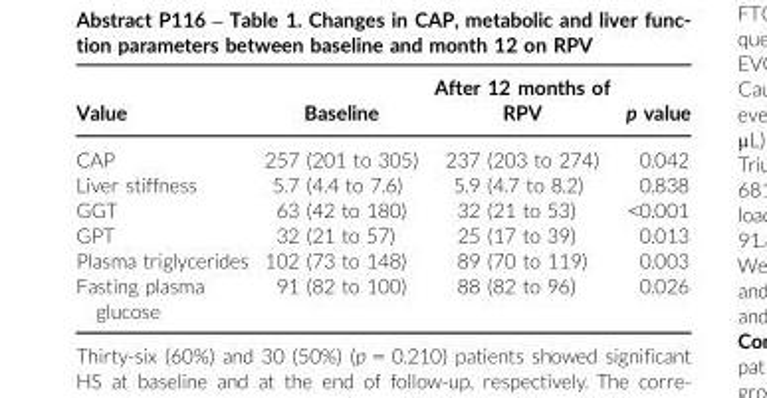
<table><thead><tr><td>Value</td><td>Baseline</td><td>After 12 months of RPV</td><td>p value</td></tr></thead><tbody><tr><td>CAP</td><td>257 (201 to 305)</td><td>237 (203 to 274)</td><td>0.042</td></tr><tr><td>Liver stiffness</td><td>5.7 (4.4 to 7.6)</td><td>5.9 (4.7 to 8.2)</td><td>0.838</td></tr><tr><td>GGT</td><td>63 (42 to 180)</td><td>32 (21 to 53)</td><td>&lt;0.001</td></tr><tr><td>GPT</td><td>32 (21 to 57)</td><td>25 (17 to 39)</td><td>0.013</td></tr><tr><td>Plasma triglycerides</td><td>102 (73 to 148)</td><td>89 (70 to 119)</td><td>0.003</td></tr><tr><td>Fasting plasma glucose</td><td>91 (82 to 100)</td><td>88 (82 to 96)</td><td>0.026</td></tr></tbody></table>